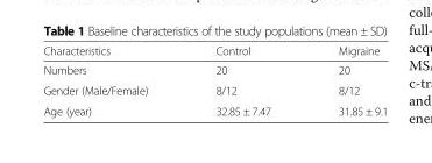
<table><thead><tr><td>Characteristics</td><td>Control</td><td>Migraine</td></tr></thead><tbody><tr><td>Numbers</td><td>20</td><td>20</td></tr><tr><td>Gender (Male/Female)</td><td>8/12</td><td>8/12</td></tr><tr><td>Age (year)</td><td>32.85 ± 7.47</td><td>31.85 ± 9.1</td></tr></tbody></table>